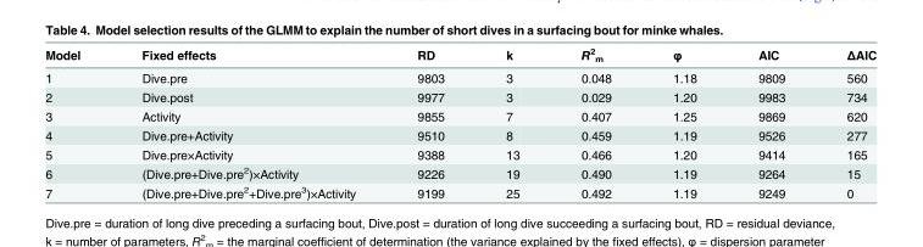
<table><thead><tr><td>Model</td><td>Fixed effects</td><td>RD</td><td>k</td><td>R<sup>2</sup> <sub>m</sub></td><td>φ</td><td>AIC</td><td>ΔAIC</td></tr></thead><tbody><tr><td>1</td><td>Dive.pre</td><td>9803</td><td>3</td><td>0.048</td><td>1.18</td><td>9809</td><td>560</td></tr><tr><td>2</td><td>Dive.post</td><td>9977</td><td>3</td><td>0.029</td><td>1.20</td><td>9983</td><td>734</td></tr><tr><td>3</td><td>Activity</td><td>9855</td><td>7</td><td>0.407</td><td>1.25</td><td>9869</td><td>620</td></tr><tr><td>4</td><td>Dive.pre+Activity</td><td>9510</td><td>8</td><td>0.459</td><td>1.19</td><td>9526</td><td>277</td></tr><tr><td>5</td><td>Dive.pre×Activity</td><td>9388</td><td>13</td><td>0.466</td><td>1.20</td><td>9414</td><td>165</td></tr><tr><td>6</td><td>(Dive.pre+Dive.pre<sup>2</sup>)×Activity</td><td>9226</td><td>19</td><td>0.490</td><td>1.19</td><td>9264</td><td>15</td></tr><tr><td>7</td><td>(Dive.pre+Dive.pre<sup>2</sup>+Dive.pre<sup>3</sup>)×Activity</td><td>9199</td><td>25</td><td>0.492</td><td>1.19</td><td>9249</td><td>0</td></tr></tbody></table>